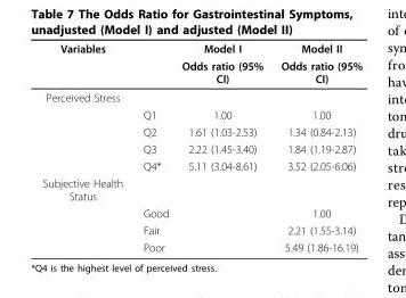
<table><tbody><tr><td rowspan="2">Variables</td><td></td><td>Model I</td><td>Model II</td></tr><tr><td></td><td>Odds ratio (95% CI)</td><td>Odds ratio (95% CI)</td></tr><tr><td colspan="4">Perceived Stress</td></tr><tr><td></td><td>Q1</td><td>1.00</td><td>1.00</td></tr><tr><td></td><td>Q2</td><td>1.61 (1.03-2.53)</td><td>1.34 (0.84-2.13)</td></tr><tr><td></td><td>Q3</td><td>2.22 (1.45-3.40)</td><td>1.84 (1.19-2.87)</td></tr><tr><td></td><td>Q4*</td><td>5.11 (3.04-8.61)</td><td>3.52 (2.05-6.06)</td></tr><tr><td colspan="4">Subjective Health Status</td></tr><tr><td></td><td>Good</td><td></td><td>1.00</td></tr><tr><td></td><td>Fair</td><td></td><td>2.21 (1.55-3.14)</td></tr><tr><td></td><td>Poor</td><td></td><td>5.49 (1.86-16.19)</td></tr></tbody></table>